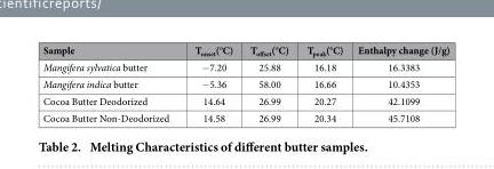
<table><thead><tr><td>Sample</td><td>T<sub>onset</sub>(°C)</td><td>T<sub>offset</sub>(°C)</td><td>T<sub>peak</sub>(°C)</td><td>Enthalpy change (J/g)</td></tr></thead><tbody><tr><td>Mangifera sylvatica butter</td><td>− 7.20</td><td>25.88</td><td>16.18</td><td>16.3383</td></tr><tr><td>Mangifera indica butter</td><td>− 5.36</td><td>58.00</td><td>16.66</td><td>10.4353</td></tr><tr><td>Cocoa Butter Deodorized</td><td>14.64</td><td>26.99</td><td>20.27</td><td>42.1099</td></tr><tr><td>Cocoa Butter Non-Deodorized</td><td>14.58</td><td>26.99</td><td>20.34</td><td>45.7108</td></tr></tbody></table>